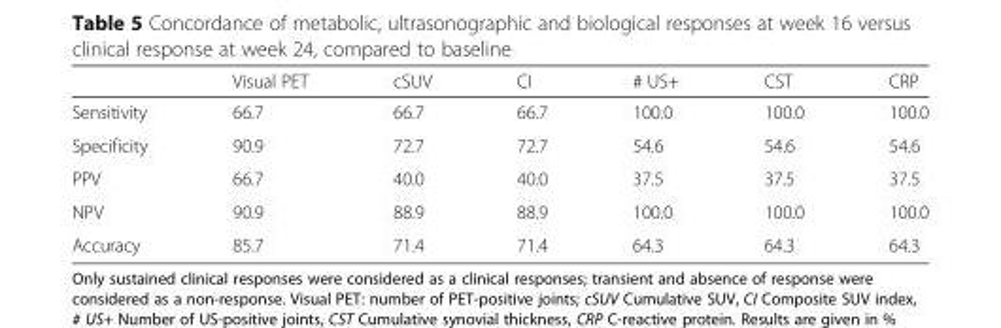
<table><thead><tr><td></td><td>Visual PET</td><td>cSUV</td><td>CI</td><td># US+</td><td>CST</td><td>CRP</td></tr></thead><tbody><tr><td>Sensitivity</td><td>66.7</td><td>66.7</td><td>66.7</td><td>100.0</td><td>100.0</td><td>100.0</td></tr><tr><td>Specificity</td><td>90.9</td><td>72.7</td><td>72.7</td><td>54.6</td><td>54.6</td><td>54.6</td></tr><tr><td>PPV</td><td>66.7</td><td>40.0</td><td>40.0</td><td>37.5</td><td>37.5</td><td>37.5</td></tr><tr><td>NPV</td><td>90.9</td><td>88.9</td><td>88.9</td><td>100.0</td><td>100.0</td><td>100.0</td></tr><tr><td>Accuracy</td><td>85.7</td><td>71.4</td><td>71.4</td><td>64.3</td><td>64.3</td><td>64.3</td></tr></tbody></table>